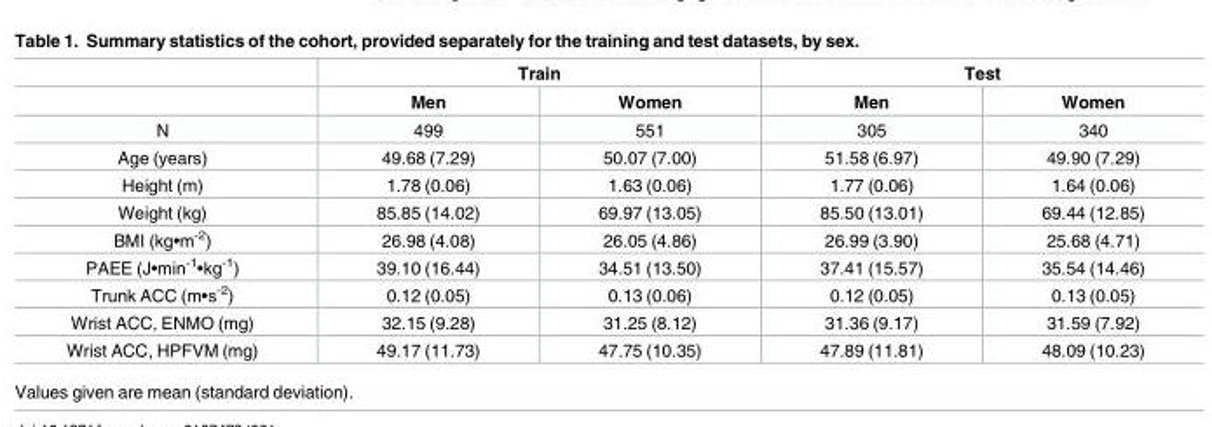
<table><thead><tr><td rowspan="2"></td><td colspan="2">Train</td><td colspan="2">Test</td></tr><tr><td>Men</td><td>Women</td><td>Men</td><td>Women</td></tr></thead><tbody><tr><td>N</td><td>499</td><td>551</td><td>305</td><td>340</td></tr><tr><td>Age (years)</td><td>49.68 (7.29)</td><td>50.07 (7.00)</td><td>51.58 (6.97)</td><td>49.90 (7.29)</td></tr><tr><td>Height (m)</td><td>1.78 (0.06)</td><td>1.63 (0.06)</td><td>1.77 (0.06)</td><td>1.64 (0.06)</td></tr><tr><td>Weight (kg)</td><td>85.85 (14.02)</td><td>69.97 (13.05)</td><td>85.50 (13.01)</td><td>69.44 (12.85)</td></tr><tr><td>BMI (kg•m<sup>-2</sup>)</td><td>26.98 (4.08)</td><td>26.05 (4.86)</td><td>26.99 (3.90)</td><td>25.68 (4.71)</td></tr><tr><td>PAEE (J•min<sup>-1</sup>•kg<sup>-1</sup>)</td><td>39.10 (16.44)</td><td>34.51 (13.50)</td><td>37.41 (15.57)</td><td>35.54 (14.46)</td></tr><tr><td>Trunk ACC (m•s<sup>-2</sup>)</td><td>0.12 (0.05)</td><td>0.13 (0.06)</td><td>0.12 (0.05)</td><td>0.13 (0.05)</td></tr><tr><td>Wrist ACC, ENMO (mg)</td><td>32.15 (9.28)</td><td>31.25 (8.12)</td><td>31.36 (9.17)</td><td>31.59 (7.92)</td></tr><tr><td>Wrist ACC, HPFVM (mg)</td><td>49.17 (11.73)</td><td>47.75 (10.35)</td><td>47.89 (11.81)</td><td>48.09 (10.23)</td></tr></tbody></table>